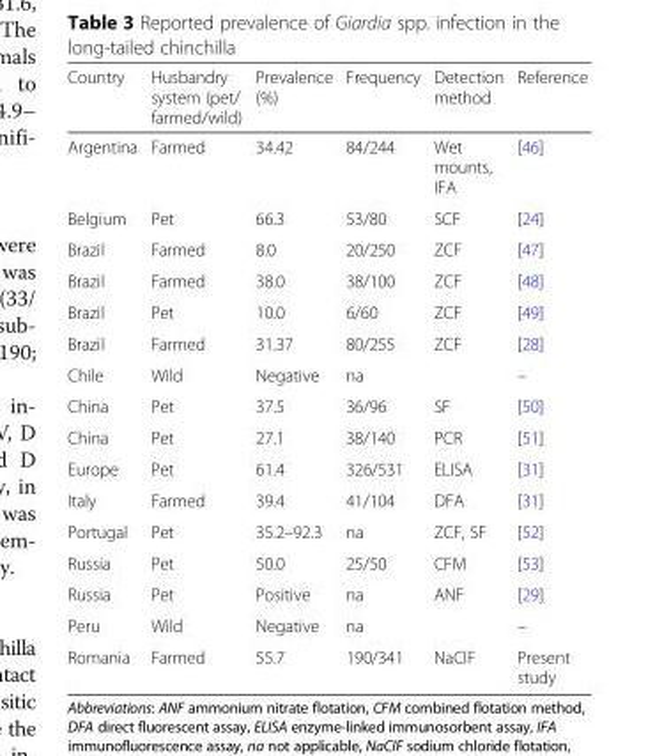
<table><thead><tr><td>Country</td><td>Husbandry system (pet/ farmed/wild)</td><td>Prevalence (%)</td><td>Frequency</td><td>Detection method</td><td>Reference</td></tr></thead><tbody><tr><td>Argentina</td><td>Farmed</td><td>34.42</td><td>84/244</td><td>Wet mounts, IFA</td><td>[46]</td></tr><tr><td>Belgium</td><td>Pet</td><td>66.3</td><td>53/80</td><td>SCF</td><td>[24]</td></tr><tr><td>Brazil</td><td>Farmed</td><td>8.0</td><td>20/250</td><td>ZCF</td><td>[47]</td></tr><tr><td>Brazil</td><td>Farmed</td><td>38.0</td><td>38/100</td><td>ZCF</td><td>[48]</td></tr><tr><td>Brazil</td><td>Pet</td><td>10.0</td><td>6/60</td><td>ZCF</td><td>[49]</td></tr><tr><td>Brazil</td><td>Farmed</td><td>31.37</td><td>80/255</td><td>ZCF</td><td>[28]</td></tr><tr><td>Chile</td><td>Wild</td><td>Negative</td><td>na</td><td></td><td>–</td></tr><tr><td>China</td><td>Pet</td><td>37.5</td><td>36/96</td><td>SF</td><td>[50]</td></tr><tr><td>China</td><td>Pet</td><td>27.1</td><td>38/140</td><td>PCR</td><td>[51]</td></tr><tr><td>Europe</td><td>Pet</td><td>61.4</td><td>326/531</td><td>ELISA</td><td>[31]</td></tr><tr><td>Italy</td><td>Farmed</td><td>39.4</td><td>41/104</td><td>DFA</td><td>[31]</td></tr><tr><td>Portugal</td><td>Pet</td><td>35.2–92.3</td><td>na</td><td>ZCF, SF</td><td>[52]</td></tr><tr><td>Russia</td><td>Pet</td><td>50.0</td><td>25/50</td><td>CFM</td><td>[53]</td></tr><tr><td>Russia</td><td>Pet</td><td>Positive</td><td>na</td><td>ANF</td><td>[29]</td></tr><tr><td>Peru</td><td>Wild</td><td>Negative</td><td>na</td><td></td><td>–</td></tr><tr><td>Romania</td><td>Farmed</td><td>55.7</td><td>190/341</td><td>NaClF</td><td>Present study</td></tr></tbody></table>